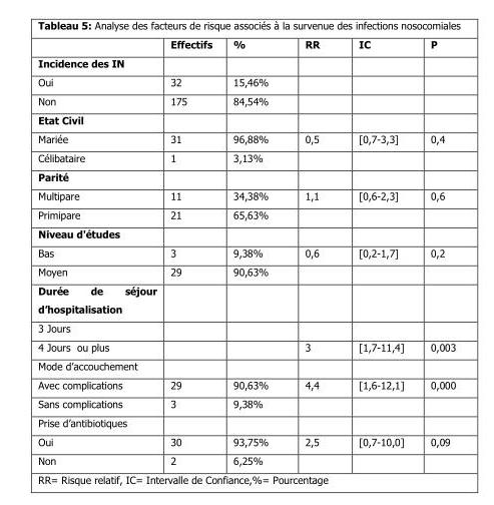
<table><thead><tr><td></td><td>Effectifs</td><td>%</td><td>RR</td><td>IC</td><td>P</td></tr></thead><tbody><tr><td colspan="6">Incidence des IN</td></tr><tr><td>Oui</td><td>32</td><td>15,46%</td><td></td><td></td><td></td></tr><tr><td>Non</td><td>175</td><td>84,54%</td><td></td><td></td><td></td></tr><tr><td colspan="6">Etat Civil</td></tr><tr><td>Mariée</td><td>31</td><td>96,88%</td><td>0,5</td><td>[0,7-3,3]</td><td>0,4</td></tr><tr><td>Célibataire</td><td>1</td><td>3,13%</td><td></td><td></td><td></td></tr><tr><td colspan="6">Parité</td></tr><tr><td>Multipare</td><td>11</td><td>34,38%</td><td>1,1</td><td>[0,6-2,3]</td><td>0,6</td></tr><tr><td>Primipare</td><td>21</td><td>65,63%</td><td></td><td></td><td></td></tr><tr><td colspan="6">Niveau d&#x27;études</td></tr><tr><td>Bas</td><td>3</td><td>9,38%</td><td>0,6</td><td>[0,2-1,7]</td><td>0,2</td></tr><tr><td>Moyen</td><td>29</td><td>90,63%</td><td></td><td></td><td></td></tr><tr><td colspan="6">Durée de séjour d’hospitalisation</td></tr><tr><td colspan="6">3 Jours</td></tr><tr><td>4 Jours ou plus</td><td></td><td></td><td>3</td><td>[1,7-11,4]</td><td>0,003</td></tr><tr><td colspan="6">Mode d’accouchement</td></tr><tr><td>Avec complications</td><td>29</td><td>90,63%</td><td>4,4</td><td>[1,6-12,1]</td><td>0,000</td></tr><tr><td>Sans complications</td><td>3</td><td>9,38%</td><td></td><td></td><td></td></tr><tr><td colspan="6">Prise d’antibiotiques</td></tr><tr><td>Oui</td><td>30</td><td>93,75%</td><td>2,5</td><td>[0,7-10,0]</td><td>0,09</td></tr><tr><td>Non</td><td>2</td><td>6,25%</td><td></td><td></td><td></td></tr></tbody></table>